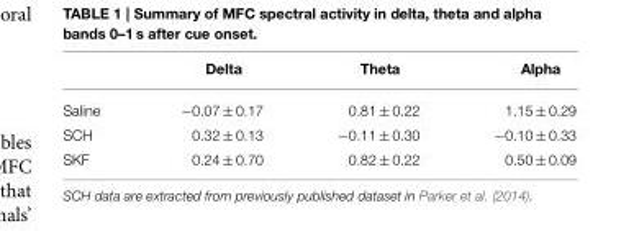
<table><thead><tr><td></td><td>Delta</td><td>Theta</td><td>Alpha</td></tr></thead><tbody><tr><td>Saline</td><td>−0.07 ± 0.17</td><td>0.81 ± 0.22</td><td>1.15 ± 0.29</td></tr><tr><td>SCH</td><td>0.32 ± 0.13</td><td>−0.11 ± 0.30</td><td>−0.10 ± 0.33</td></tr><tr><td>SKF</td><td>0.24 ± 0.70</td><td>0.82 ± 0.22</td><td>0.50 ± 0.09</td></tr></tbody></table>